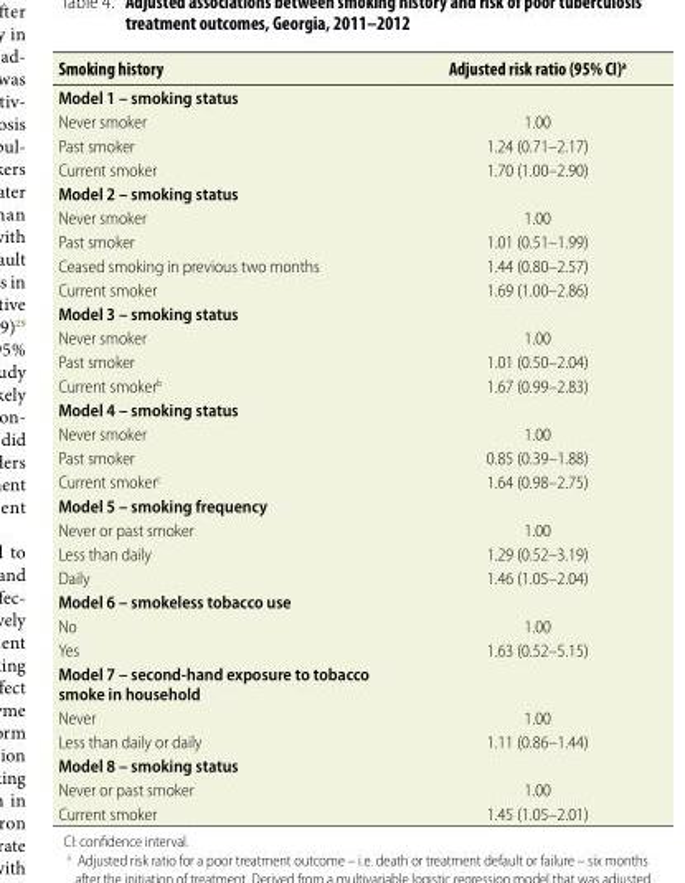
<table><thead><tr><td>Smoking history</td><td>Adjusted risk ratio (95% CI)<sup>a</sup></td></tr></thead><tbody><tr><td colspan="2">Model 1 – smoking status</td></tr><tr><td>Never smoker</td><td>1.00</td></tr><tr><td>Past smoker</td><td>1.24 (0.71–2.17)</td></tr><tr><td>Current smoker</td><td>1.70 (1.00–2.90)</td></tr><tr><td colspan="2">Model 2 – smoking status</td></tr><tr><td>Never smoker</td><td>1.00</td></tr><tr><td>Past smoker</td><td>1.01 (0.51–1.99)</td></tr><tr><td>Ceased smoking in previous two months</td><td>1.44 (0.80–2.57)</td></tr><tr><td>Current smoker</td><td>1.69 (1.00–2.86)</td></tr><tr><td colspan="2">Model 3 – smoking status</td></tr><tr><td>Never smoker</td><td>1.00</td></tr><tr><td>Past smoker</td><td>1.01 (0.50–2.04)</td></tr><tr><td>Current smoker<sup>b</sup></td><td>1.67 (0.99–2.83)</td></tr><tr><td colspan="2">Model 4 – smoking status</td></tr><tr><td>Never smoker</td><td>1.00</td></tr><tr><td>Past smoker</td><td>0.85 (0.39–1.88)</td></tr><tr><td>Current smoker<sup>c</sup></td><td>1.64 (0.98–2.75)</td></tr><tr><td colspan="2">Model 5 – smoking frequency</td></tr><tr><td>Never or past smoker</td><td>1.00</td></tr><tr><td>Less than daily</td><td>1.29 (0.52–3.19)</td></tr><tr><td>Daily</td><td>1.46 (1.05–2.04)</td></tr><tr><td colspan="2">Model 6 – smokeless tobacco use</td></tr><tr><td>No</td><td>1.00</td></tr><tr><td>Yes</td><td>1.63 (0.52–5.15)</td></tr><tr><td colspan="2">Model 7 – second-hand exposure to tobacco smoke in household</td></tr><tr><td>Never</td><td>1.00</td></tr><tr><td>Less than daily or daily</td><td>1.11 (0.86–1.44)</td></tr><tr><td colspan="2">Model 8 – smoking status</td></tr><tr><td>Never or past smoker</td><td>1.00</td></tr><tr><td>Current smoker</td><td>1.45 (1.05–2.01)</td></tr></tbody></table>